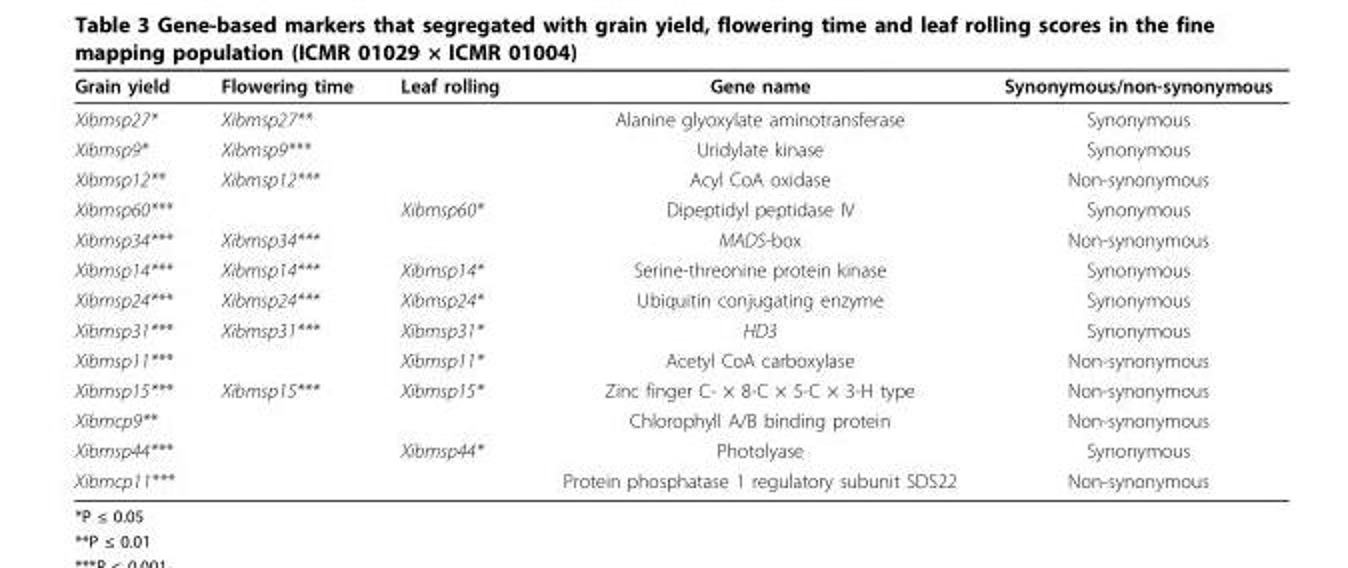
<table><thead><tr><td>Grain yield</td><td>Flowering time</td><td>Leaf rolling</td><td>Gene name</td><td>Synonymous/non-synonymous</td></tr></thead><tbody><tr><td>Xibmsp27*</td><td>Xibmsp27**</td><td></td><td>Alanine glyoxylate aminotransferase</td><td>Synonymous</td></tr><tr><td>Xibmsp9*</td><td>Xibmsp9***</td><td></td><td>Uridylate kinase</td><td>Synonymous</td></tr><tr><td>Xibmsp12**</td><td>Xibmsp12***</td><td></td><td>Acyl CoA oxidase</td><td>Non-synonymous</td></tr><tr><td>Xibmsp60***</td><td></td><td>Xibmsp60*</td><td>Dipeptidyl peptidase IV</td><td>Synonymous</td></tr><tr><td>Xibmsp34***</td><td>Xibmsp34***</td><td></td><td>MADS-box</td><td>Non-synonymous</td></tr><tr><td>Xibmsp14***</td><td>Xibmsp14***</td><td>Xibmsp14*</td><td>Serine-threonine protein kinase</td><td>Synonymous</td></tr><tr><td>Xibmsp24***</td><td>Xibmsp24***</td><td>Xibmsp24*</td><td>Ubiquitin conjugating enzyme</td><td>Synonymous</td></tr><tr><td>Xibmsp31***</td><td>Xibmsp31***</td><td>Xibmsp31*</td><td>HD3</td><td>Synonymous</td></tr><tr><td>Xibmsp11***</td><td></td><td>Xibmsp11*</td><td>Acetyl CoA carboxylase</td><td>Non-synonymous</td></tr><tr><td>Xibmsp15***</td><td>Xibmsp15***</td><td>Xibmsp15*</td><td>Zinc finger C- × 8-C × 5-C × 3-H type</td><td>Non-synonymous</td></tr><tr><td>Xibmcp9**</td><td></td><td></td><td>Chlorophyll A/B binding protein</td><td>Non-synonymous</td></tr><tr><td>Xibmsp44***</td><td></td><td>Xibmsp44*</td><td>Photolyase</td><td>Synonymous</td></tr><tr><td>Xibmcp11***</td><td></td><td></td><td>Protein phosphatase 1 regulatory subunit SDS22</td><td>Non-synonymous</td></tr></tbody></table>